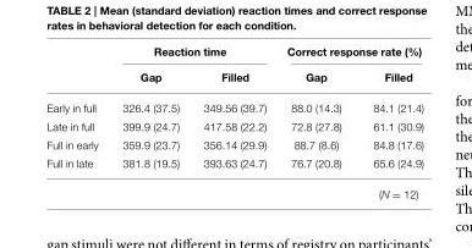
<table><thead><tr><td rowspan="2"></td><td colspan="2">Reaction time</td><td colspan="2">Correct response rate (%)</td></tr><tr><td>Gap</td><td>Filled</td><td>Gap</td><td>Filled</td></tr></thead><tbody><tr><td>Early in full</td><td>326.4 (37.5)</td><td>349.56 (39.7)</td><td>88.0 (14.3)</td><td>84.1 (21.4)</td></tr><tr><td>Late in full</td><td>399.9 (24.7)</td><td>417.58 (22.2)</td><td>72.8 (27.8)</td><td>61.1 (30.9)</td></tr><tr><td>Full in early</td><td>359.9 (23.7)</td><td>356.14 (29.9)</td><td>88.7 (8.6)</td><td>84.8 (17.6)</td></tr><tr><td rowspan="2">Full in late</td><td>381.8 (19.5)</td><td>393.63 (24.7)</td><td>76.7 (20.8)</td><td>65.6 (24.9)</td></tr><tr><td></td><td></td><td></td><td>(N = 12)</td></tr></tbody></table>